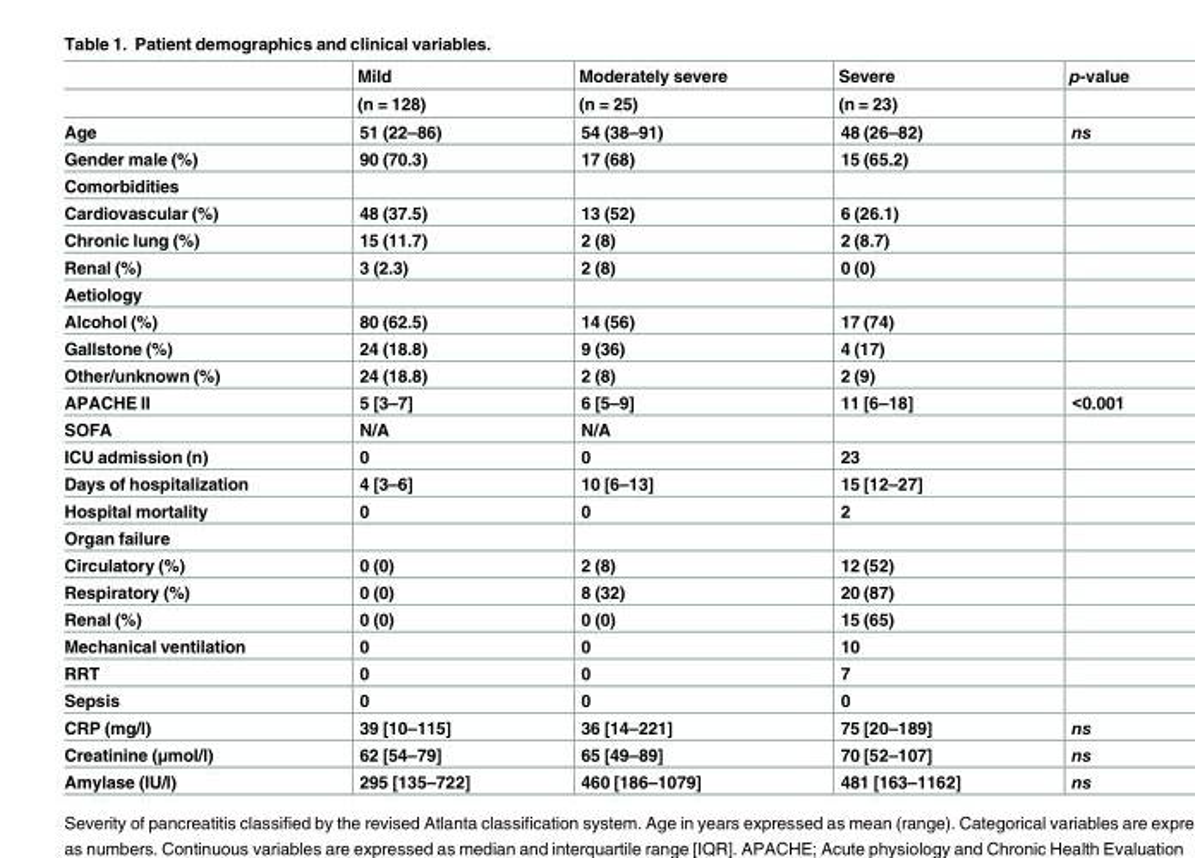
<table><thead><tr><td rowspan="2"></td><td rowspan="2">Mild (n = 128)</td><td rowspan="2">Moderately severe (n = 25)</td><td rowspan="2">Severe (n = 23)</td><td rowspan="2">p-value</td></tr><tr></tr></thead><tbody><tr><td>Age</td><td>51 (22–86)</td><td>54 (38–91)</td><td>48 (26–82)</td><td>ns</td></tr><tr><td>Gender male (%)</td><td>90 (70.3)</td><td>17 (68)</td><td>15 (65.2)</td><td></td></tr><tr><td colspan="5">Comorbidities</td></tr><tr><td>Cardiovascular (%)</td><td>48 (37.5)</td><td>13 (52)</td><td>6 (26.1)</td><td></td></tr><tr><td>Chronic lung (%)</td><td>15 (11.7)</td><td>2 (8)</td><td>2 (8.7)</td><td></td></tr><tr><td>Renal (%)</td><td>3 (2.3)</td><td>2 (8)</td><td>0 (0)</td><td></td></tr><tr><td colspan="5">Aetiology</td></tr><tr><td>Alcohol (%)</td><td>80 (62.5)</td><td>14 (56)</td><td>17 (74)</td><td></td></tr><tr><td>Gallstone (%)</td><td>24 (18.8)</td><td>9 (36)</td><td>4 (17)</td><td></td></tr><tr><td>Other/unknown (%)</td><td>24 (18.8)</td><td>2 (8)</td><td>2 (9)</td><td></td></tr><tr><td>APACHE II</td><td>5 [3–7]</td><td>6 [5–9]</td><td>11 [6–18]</td><td>&lt;0.001</td></tr><tr><td>SOFA</td><td>N/A</td><td>N/A</td><td></td><td></td></tr><tr><td>ICU admission (n)</td><td>0</td><td>0</td><td>23</td><td></td></tr><tr><td>Days of hospitalization</td><td>4 [3–6]</td><td>10 [6–13]</td><td>15 [12–27]</td><td></td></tr><tr><td>Hospital mortality</td><td>0</td><td>0</td><td>2</td><td></td></tr><tr><td colspan="5">Organ failure</td></tr><tr><td>Circulatory (%)</td><td>0 (0)</td><td>2 (8)</td><td>12 (52)</td><td></td></tr><tr><td>Respiratory (%)</td><td>0 (0)</td><td>8 (32)</td><td>20 (87)</td><td></td></tr><tr><td>Renal (%)</td><td>0 (0)</td><td>0 (0)</td><td>15 (65)</td><td></td></tr><tr><td>Mechanical ventilation</td><td>0</td><td>0</td><td>10</td><td></td></tr><tr><td>RRT</td><td>0</td><td>0</td><td>7</td><td></td></tr><tr><td>Sepsis</td><td>0</td><td>0</td><td>0</td><td></td></tr><tr><td>CRP (mg/l)</td><td>39 [10–115]</td><td>36 [14–221]</td><td>75 [20–189]</td><td>ns</td></tr><tr><td>Creatinine (μmol/l)</td><td>62 [54–79]</td><td>65 [49–89]</td><td>70 [52–107]</td><td>ns</td></tr><tr><td>Amylase (IU/l)</td><td>295 [135–722]</td><td>460 [186–1079]</td><td>481 [163–1162]</td><td>ns</td></tr></tbody></table>